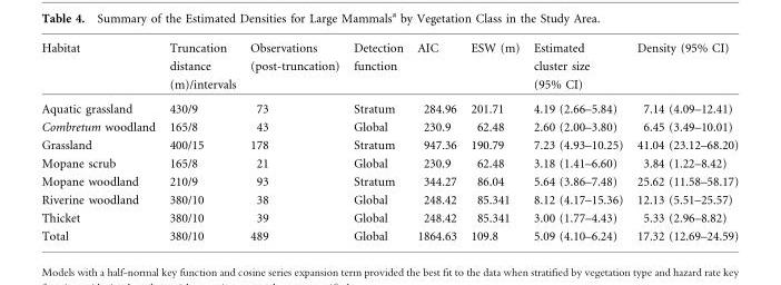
<table><thead><tr><td>Habitat</td><td>Truncation distance (m)/intervals</td><td>Observations (post-truncation)</td><td>Detection function</td><td>AIC</td><td>ESW (m)</td><td>Estimated cluster size (95% CI)</td><td>Density (95% CI)</td></tr></thead><tbody><tr><td>Aquatic grassland</td><td>430/9</td><td>73</td><td>Stratum</td><td>284.96</td><td>201.71</td><td>4.19 (2.66–5.84)</td><td>7.14 (4.09–12.41)</td></tr><tr><td>Combretum woodland</td><td>165/8</td><td>43</td><td>Global</td><td>230.9</td><td>62.48</td><td>2.60 (2.00–3.80)</td><td>6.45 (3.49–10.01)</td></tr><tr><td>Grassland</td><td>400/15</td><td>178</td><td>Stratum</td><td>947.36</td><td>190.79</td><td>7.23 (4.93–10.25)</td><td>41.04 (23.12–68.20)</td></tr><tr><td>Mopane scrub</td><td>165/8</td><td>21</td><td>Global</td><td>230.9</td><td>62.48</td><td>3.18 (1.41–6.60)</td><td>3.84 (1.22–8.42)</td></tr><tr><td>Mopane woodland</td><td>210/9</td><td>93</td><td>Stratum</td><td>344.27</td><td>86.04</td><td>5.64 (3.86–7.48)</td><td>25.62 (11.58–58.17)</td></tr><tr><td>Riverine woodland</td><td>380/10</td><td>38</td><td>Global</td><td>248.42</td><td>85.341</td><td>8.12 (4.17–15.36)</td><td>12.13 (5.51–25.57)</td></tr><tr><td>Thicket</td><td>380/10</td><td>39</td><td>Global</td><td>248.42</td><td>85.341</td><td>3.00 (1.77–4.43)</td><td>5.33 (2.96–8.82)</td></tr><tr><td>Total</td><td>380/10</td><td>489</td><td>Global</td><td>1864.63</td><td>109.8</td><td>5.09 (4.10–6.24)</td><td>17.32 (12.69–24.59)</td></tr></tbody></table>